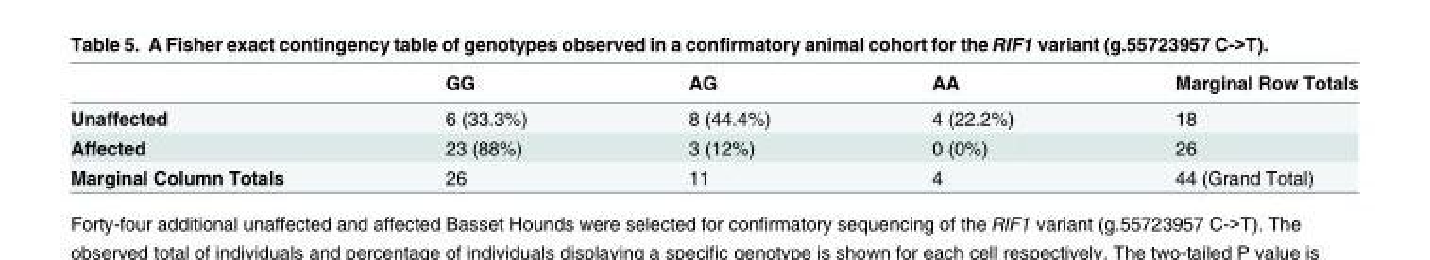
<table><thead><tr><td></td><td>GG</td><td>AG</td><td>AA</td><td>Marginal Row Totals</td></tr></thead><tbody><tr><td>Unaffected</td><td>6 (33.3%)</td><td>8 (44.4%)</td><td>4 (22.2%)</td><td>18</td></tr><tr><td>Affected</td><td>23 (88%)</td><td>3 (12%)</td><td>0 (0%)</td><td>26</td></tr><tr><td>Marginal Column Totals</td><td>26</td><td>11</td><td>4</td><td>44 (Grand Total)</td></tr></tbody></table>